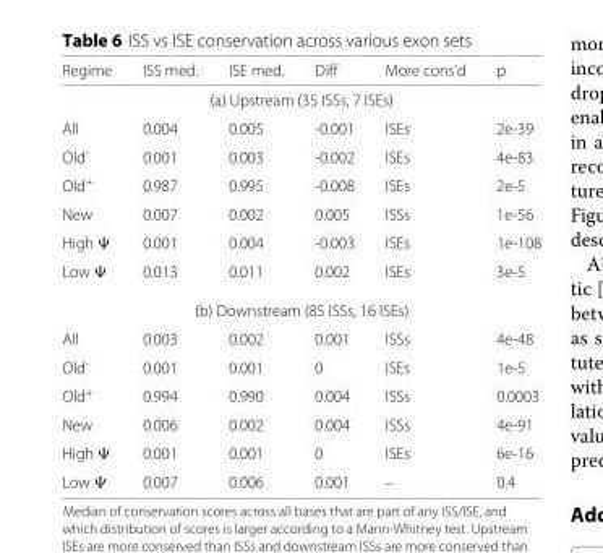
<table><thead><tr><td>Regime</td><td>ISS med.</td><td>ISE med.</td><td>Diff</td><td>More cons‘d</td><td>p</td></tr></thead><tbody><tr><td colspan="6">(a) Upstream (35 ISSs, 7 ISEs)</td></tr><tr><td>All</td><td>0.004</td><td>0.005</td><td>-0.001</td><td>ISEs</td><td>2e-39</td></tr><tr><td>Old<sup>-</sup></td><td>0.001</td><td>0.003</td><td>-0.002</td><td>ISEs</td><td>4e-83</td></tr><tr><td>Old<sup>+</sup></td><td>0.987</td><td>0.995</td><td>-0.008</td><td>ISEs</td><td>2e-5</td></tr><tr><td>New</td><td>0.007</td><td>0.002</td><td>0.005</td><td>ISSs</td><td>1e-56</td></tr><tr><td>High Ψ</td><td>0.001</td><td>0.004</td><td>-0.003</td><td>ISEs</td><td>1e-108</td></tr><tr><td>Low Ψ</td><td>0.013</td><td>0.011</td><td>0.002</td><td>ISEs</td><td>3e-5</td></tr><tr><td colspan="6">(b) Downstream (85 ISSs, 16 ISEs)</td></tr><tr><td>All</td><td>0.003</td><td>0.002</td><td>0.001</td><td>ISSs</td><td>4e-48</td></tr><tr><td>Old<sup>-</sup></td><td>0.001</td><td>0.001</td><td>0</td><td>ISEs</td><td>1e-5</td></tr><tr><td>Old<sup>+</sup></td><td>0.994</td><td>0.990</td><td>0.004</td><td>ISSs</td><td>0.0003</td></tr><tr><td>New</td><td>0.006</td><td>0.002</td><td>0.004</td><td>ISSs</td><td>4e-91</td></tr><tr><td>High Ψ</td><td>0.001</td><td>0.001</td><td>0</td><td>ISEs</td><td>6e-16</td></tr><tr><td>Low Ψ</td><td>0.007</td><td>0.006</td><td>0.001</td><td>–</td><td>0.4</td></tr></tbody></table>